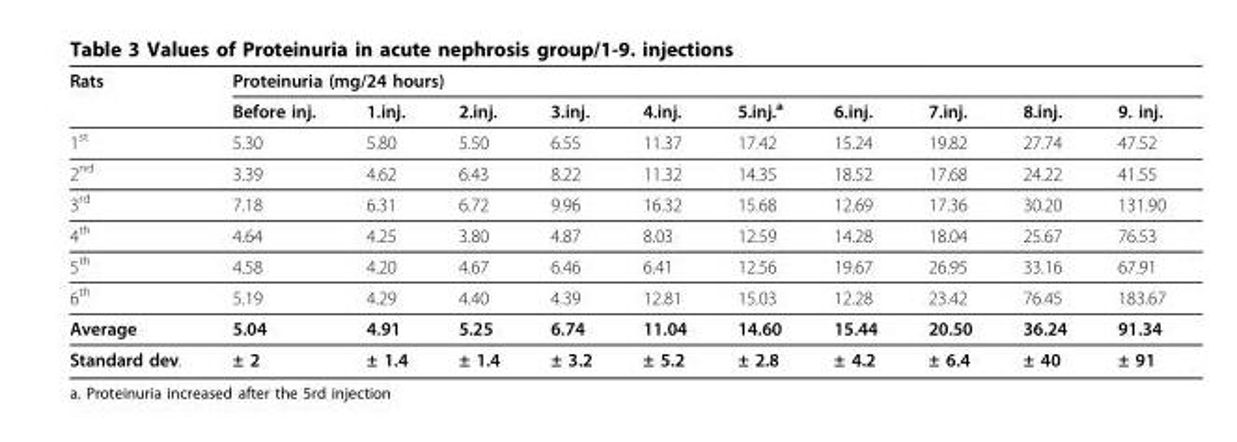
<table><thead><tr><td rowspan="2">Rats</td><td colspan="10">Proteinuria (mg/24 hours)</td></tr><tr><td>Before inj.</td><td>1.inj.</td><td>2.inj.</td><td>3.inj.</td><td>4.inj.</td><td>5.inj.<sup>a</sup></td><td>6.inj.</td><td>7.inj.</td><td>8.inj.</td><td>9. inj.</td></tr></thead><tbody><tr><td>1<sup>st</sup></td><td>5.30</td><td>5.80</td><td>5.50</td><td>6.55</td><td>11.37</td><td>17.42</td><td>15.24</td><td>19.82</td><td>27.74</td><td>47.52</td></tr><tr><td>2<sup>nd</sup></td><td>3.39</td><td>4.62</td><td>6.43</td><td>8.22</td><td>11.32</td><td>14.35</td><td>18.52</td><td>17.68</td><td>24.22</td><td>41.55</td></tr><tr><td>3<sup>rd</sup></td><td>7.18</td><td>6.31</td><td>6.72</td><td>9.96</td><td>16.32</td><td>15.68</td><td>12.69</td><td>17.36</td><td>30.20</td><td>131.90</td></tr><tr><td>4<sup>th</sup></td><td>4.64</td><td>4.25</td><td>3.80</td><td>4.87</td><td>8.03</td><td>12.59</td><td>14.28</td><td>18.04</td><td>25.67</td><td>76.53</td></tr><tr><td>5<sup>th</sup></td><td>4.58</td><td>4.20</td><td>4.67</td><td>6.46</td><td>6.41</td><td>12.56</td><td>19.67</td><td>26.95</td><td>33.16</td><td>67.91</td></tr><tr><td>6<sup>th</sup></td><td>5.19</td><td>4.29</td><td>4.40</td><td>4.39</td><td>12.81</td><td>15.03</td><td>12.28</td><td>23.42</td><td>76.45</td><td>183.67</td></tr><tr><td>Average</td><td>5.04</td><td>4.91</td><td>5.25</td><td>6.74</td><td>11.04</td><td>14.60</td><td>15.44</td><td>20.50</td><td>36.24</td><td>91.34</td></tr><tr><td>Standard dev.</td><td>± 2</td><td>± 1.4</td><td>± 1.4</td><td>± 3.2</td><td>± 5.2</td><td>± 2.8</td><td>± 4.2</td><td>± 6.4</td><td>± 40</td><td>± 91</td></tr></tbody></table>